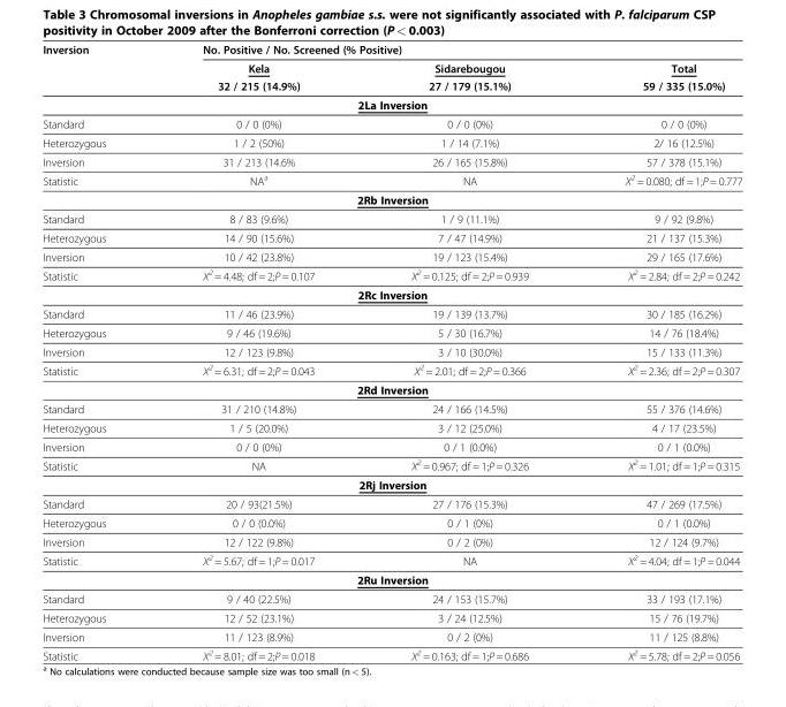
<table><thead><tr><td rowspan="3">Inversion</td><td colspan="3">No. Positive / No. Screened (% Positive)</td></tr><tr><td rowspan="2">Kela 32 / 215 (14.9%)</td><td rowspan="2">Sidarebougou 27 / 179 (15.1%)</td><td rowspan="2">Total 59 / 335 (15.0%)</td></tr><tr></tr></thead><tbody><tr><td colspan="4">2La Inversion</td></tr><tr><td>Standard</td><td>0 / 0 (0%)</td><td>0 / 0 (0%)</td><td>0 / 0 (0%)</td></tr><tr><td>Heterozygous</td><td>1 / 2 (50%)</td><td>1 / 14 (7.1%)</td><td>2/ 16 (12.5%)</td></tr><tr><td>Inversion</td><td>31 / 213 (14.6%</td><td>26 / 165 (15.8%)</td><td>57 / 378 (15.1%)</td></tr><tr><td>Statistic</td><td>NA<sup>a</sup></td><td>NA</td><td>X<sup>2</sup> = 0.080; df = 1;P = 0.777</td></tr><tr><td colspan="4">2Rb Inversion</td></tr><tr><td>Standard</td><td>8 / 83 (9.6%)</td><td>1 / 9 (11.1%)</td><td>9 / 92 (9.8%)</td></tr><tr><td>Heterozygous</td><td>14 / 90 (15.6%)</td><td>7 / 47 (14.9%)</td><td>21 / 137 (15.3%)</td></tr><tr><td>Inversion</td><td>10 / 42 (23.8%)</td><td>19 / 123 (15.4%)</td><td>29 / 165 (17.6%)</td></tr><tr><td>Statistic</td><td>X<sup>2</sup> = 4.48; df = 2;P = 0.107</td><td>X<sup>2</sup> = 0.125; df = 2;P = 0.939</td><td>X<sup>2</sup> = 2.84; df = 2;P = 0.242</td></tr><tr><td colspan="4">2Rc Inversion</td></tr><tr><td>Standard</td><td>11 / 46 (23.9%)</td><td>19 / 139 (13.7%)</td><td>30 / 185 (16.2%)</td></tr><tr><td>Heterozygous</td><td>9 / 46 (19.6%)</td><td>5 / 30 (16.7%)</td><td>14 / 76 (18.4%)</td></tr><tr><td>Inversion</td><td>12 / 123 (9.8%)</td><td>3 / 10 (30.0%)</td><td>15 / 133 (11.3%)</td></tr><tr><td>Statistic</td><td>X<sup>2</sup> = 6.31; df = 2;P = 0.043</td><td>X<sup>2</sup> = 2.01; df = 2;P = 0.366</td><td>X<sup>2</sup> = 2.36; df = 2;P = 0.307</td></tr><tr><td colspan="4">2Rd Inversion</td></tr><tr><td>Standard</td><td>31 / 210 (14.8%)</td><td>24 / 166 (14.5%)</td><td>55 / 376 (14.6%)</td></tr><tr><td>Heterozygous</td><td>1 / 5 (20.0%)</td><td>3 / 12 (25.0%)</td><td>4 / 17 (23.5%)</td></tr><tr><td>Inversion</td><td>0 / 0 (0%)</td><td>0 / 1 (0.0%)</td><td>0 / 1 (0.0%)</td></tr><tr><td>Statistic</td><td>NA</td><td>X<sup>2</sup> = 0.967; df = 1;P = 0.326</td><td>X<sup>2</sup> = 1.01; df = 1;P = 0.315</td></tr><tr><td colspan="4">2Rj Inversion</td></tr><tr><td>Standard</td><td>20 / 93(21.5%)</td><td>27 / 176 (15.3%)</td><td>47 / 269 (17.5%)</td></tr><tr><td>Heterozygous</td><td>0 / 0 (0.0%)</td><td>0 / 1 (0%)</td><td>0 / 1 (0.0%)</td></tr><tr><td>Inversion</td><td>12 / 122 (9.8%)</td><td>0 / 2 (0%)</td><td>12 / 124 (9.7%)</td></tr><tr><td>Statistic</td><td>X<sup>2</sup> = 5.67; df = 1;P = 0.017</td><td>NA</td><td>X<sup>2</sup> = 4.04; df = 1;P = 0.044</td></tr><tr><td colspan="4">2Ru Inversion</td></tr><tr><td>Standard</td><td>9 / 40 (22.5%)</td><td>24 / 153 (15.7%)</td><td>33 / 193 (17.1%)</td></tr><tr><td>Heterozygous</td><td>12 / 52 (23.1%)</td><td>3 / 24 (12.5%)</td><td>15 / 76 (19.7%)</td></tr><tr><td>Inversion</td><td>11 / 123 (8.9%)</td><td>0 / 2 (0%)</td><td>11 / 125 (8.8%)</td></tr><tr><td>Statistic</td><td>X<sup>2</sup> = 8.01; df = 2;P = 0.018</td><td>X<sup>2</sup> = 0.163; df = 1;P = 0.686</td><td>X<sup>2</sup> = 5.78; df = 2;P = 0.056</td></tr></tbody></table>